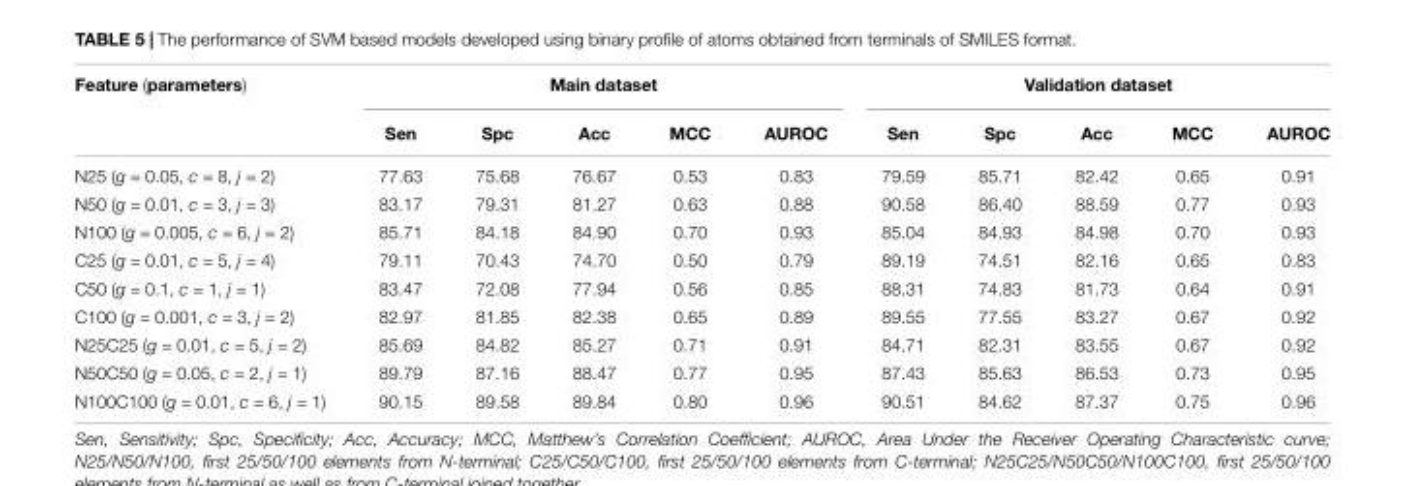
<table><thead><tr><td rowspan="2">Feature (parameters)</td><td colspan="5">Main dataset</td><td colspan="5">Validation dataset</td></tr><tr><td>Sen</td><td>Spc</td><td>Acc</td><td>MCC</td><td>AUROC</td><td>Sen</td><td>Spc</td><td>Acc</td><td>MCC</td><td>AUROC</td></tr></thead><tbody><tr><td>N25 (g = 0.05, c = 8, j = 2)</td><td>77.63</td><td>75.68</td><td>76.67</td><td>0.53</td><td>0.83</td><td>79.59</td><td>85.71</td><td>82.42</td><td>0.65</td><td>0.91</td></tr><tr><td>N50 (g = 0.01, c = 3, j = 3)</td><td>83.17</td><td>79.31</td><td>81.27</td><td>0.63</td><td>0.88</td><td>90.58</td><td>86.40</td><td>88.59</td><td>0.77</td><td>0.93</td></tr><tr><td>N100 (g = 0.005, c = 6, j = 2)</td><td>85.71</td><td>84.18</td><td>84.90</td><td>0.70</td><td>0.93</td><td>85.04</td><td>84.93</td><td>84.98</td><td>0.70</td><td>0.93</td></tr><tr><td>C25 (g = 0.01, c = 5, j = 4)</td><td>79.11</td><td>70.43</td><td>74.70</td><td>0.50</td><td>0.79</td><td>89.19</td><td>74.51</td><td>82.16</td><td>0.65</td><td>0.83</td></tr><tr><td>C50 (g = 0.1, c = 1, j = 1)</td><td>83.47</td><td>72.08</td><td>77.94</td><td>0.56</td><td>0.85</td><td>88.31</td><td>74.83</td><td>81.73</td><td>0.64</td><td>0.91</td></tr><tr><td>C100 (g = 0.001, c = 3, j = 2)</td><td>82.97</td><td>81.85</td><td>82.38</td><td>0.65</td><td>0.89</td><td>89.55</td><td>77.55</td><td>83.27</td><td>0.67</td><td>0.92</td></tr><tr><td>N25C25 (g = 0.01, c = 5, j = 2)</td><td>85.69</td><td>84.82</td><td>85.27</td><td>0.71</td><td>0.91</td><td>84.71</td><td>82.31</td><td>83.55</td><td>0.67</td><td>0.92</td></tr><tr><td>N50C50 (g = 0.05, c = 2, j = 1)</td><td>89.79</td><td>87.16</td><td>88.47</td><td>0.77</td><td>0.95</td><td>87.43</td><td>85.63</td><td>86.53</td><td>0.73</td><td>0.95</td></tr><tr><td>N100C100 (g = 0.01, c = 6, j = 1)</td><td>90.15</td><td>89.58</td><td>89.84</td><td>0.80</td><td>0.96</td><td>90.51</td><td>84.62</td><td>87.37</td><td>0.75</td><td>0.96</td></tr></tbody></table>